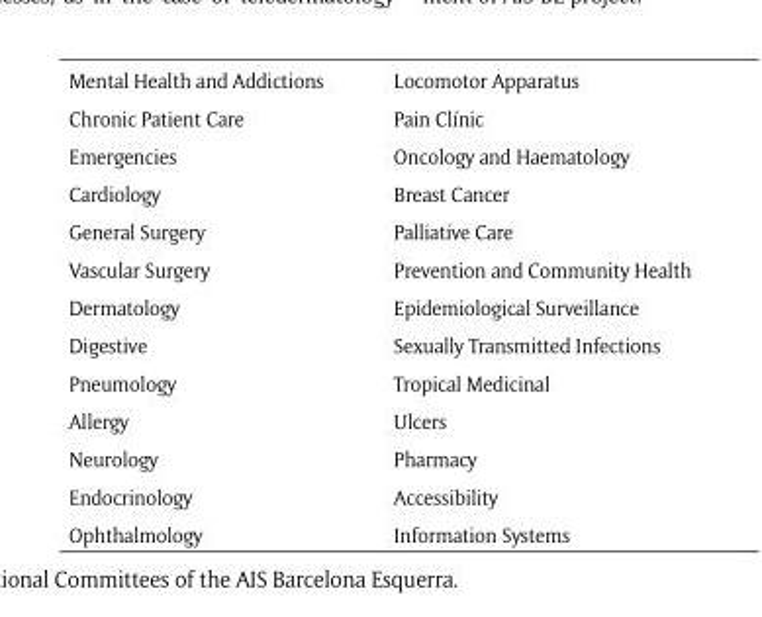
<table><tbody><tr><td>Mental Health and Addictions</td><td>Locomotor Apparatus</td></tr><tr><td>Chronic Patient Care</td><td>Pain Clínic</td></tr><tr><td>Emergencies</td><td>Oncology and Haematology</td></tr><tr><td>Cardiology</td><td>Breast Cancer</td></tr><tr><td>General Surgery</td><td>Palliative Care</td></tr><tr><td>Vascular Surgery</td><td>Prevention and Community Health</td></tr><tr><td>Dermatology</td><td>Epidemiological Surveillance</td></tr><tr><td>Digestive</td><td>Sexually Transmitted Infections</td></tr><tr><td>Pneumology</td><td>Tropical Medicinal</td></tr><tr><td>Allergy</td><td>Ulcers</td></tr><tr><td>Neurology</td><td>Pharmacy</td></tr><tr><td>Endocrinology</td><td>Accessibility</td></tr><tr><td>Ophthalmology</td><td>Information Systems</td></tr></tbody></table>